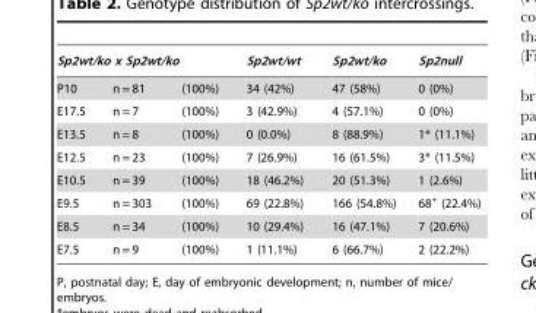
<table><thead><tr><td colspan="3">Sp2wt/ko x Sp2wt/ko</td><td rowspan="2">Sp2wt/wt 34 (42%)</td><td rowspan="2">Sp2wt/ko 47 (58%)</td><td rowspan="2">Sp2null 0 (0%)</td></tr><tr><td>P10</td><td>n = 81</td><td>(100%)</td></tr></thead><tbody><tr><td>E17.5</td><td>n = 7</td><td>(100%)</td><td>3 (42.9%)</td><td>4 (57.1%)</td><td>0 (0%)</td></tr><tr><td>E13.5</td><td>n = 8</td><td>(100%)</td><td>0 (0.0%)</td><td>8 (88.9%)</td><td>1* (11.1%)</td></tr><tr><td>E12.5</td><td>n = 23</td><td>(100%)</td><td>7 (26.9%)</td><td>16 (61.5%)</td><td>3* (11.5%)</td></tr><tr><td>E10.5</td><td>n = 39</td><td>(100%)</td><td>18 (46.2%)</td><td>20 (51.3%)</td><td>1 (2.6%)</td></tr><tr><td>E9.5</td><td>n = 303</td><td>(100%)</td><td>69 (22.8%)</td><td>166 (54.8%)</td><td>68+ (22.4%)</td></tr><tr><td>E8.5</td><td>n = 34</td><td>(100%)</td><td>10 (29.4%)</td><td>16 (47.1%)</td><td>7 (20.6%)</td></tr><tr><td>E7.5</td><td>n = 9</td><td>(100%)</td><td>1 (11.1%)</td><td>6 (66.7%)</td><td>2 (22.2%)</td></tr></tbody></table>